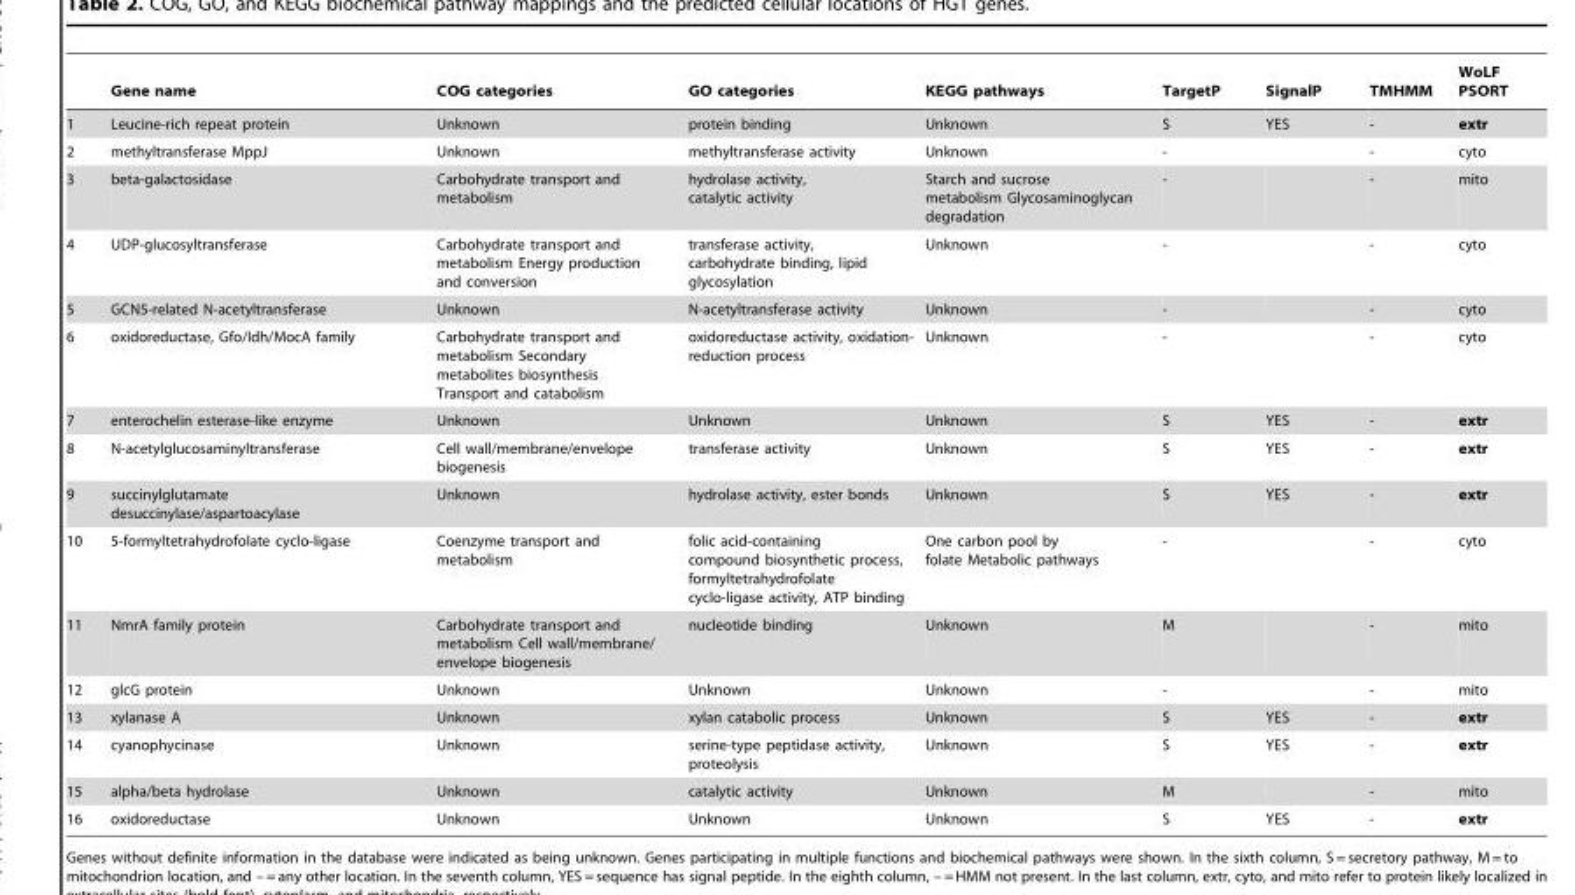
<table><thead><tr><td></td><td>Gene name</td><td>COG categories</td><td>GO categories</td><td>KEGG pathways</td><td>TargetP</td><td>SignalP</td><td>TMHMM</td><td>WoLF PSORT</td></tr></thead><tbody><tr><td>1</td><td>Leucine-rich repeat protein</td><td>Unknown</td><td>protein binding</td><td>Unknown</td><td>S</td><td>YES</td><td>-</td><td>extr</td></tr><tr><td>2</td><td>methyltransferase MppJ</td><td>Unknown</td><td>methyltransferase activity</td><td>Unknown</td><td>-</td><td></td><td>-</td><td>cyto</td></tr><tr><td>3</td><td>beta-galactosidase</td><td>Carbohydrate transport and metabolism</td><td>hydrolase activity, catalytic activity</td><td>Starch and sucrose metabolism Glycosaminoglycan degradation</td><td>-</td><td></td><td>-</td><td>mito</td></tr><tr><td>4</td><td>UDP-glucosyltransferase</td><td>Carbohydrate transport and metabolism Energy production and conversion</td><td>transferase activity, carbohydrate binding, lipid glycosylation</td><td>Unknown</td><td>-</td><td></td><td>-</td><td>cyto</td></tr><tr><td>5</td><td>GCN5-related N-acetyltransferase</td><td>Unknown</td><td>N-acetyltransferase activity</td><td>Unknown</td><td>-</td><td></td><td>-</td><td>cyto</td></tr><tr><td>6</td><td>oxidoreductase, Gfo/Idh/MocA family</td><td>Carbohydrate transport and metabolism Secondary metabolites biosynthesis Transport and catabolism</td><td>oxidoreductase activity, oxidation- reduction process</td><td>Unknown</td><td>-</td><td></td><td>-</td><td>cyto</td></tr><tr><td>7</td><td>enterochelin esterase-like enzyme</td><td>Unknown</td><td>Unknown</td><td>Unknown</td><td>S</td><td>YES</td><td>-</td><td>extr</td></tr><tr><td>8</td><td>N-acetylglucosaminyltransferase</td><td>Cell wall/membrane/envelope biogenesis</td><td>transferase activity</td><td>Unknown</td><td>S</td><td>YES</td><td>-</td><td>extr</td></tr><tr><td>9</td><td>succinylglutamate desuccinylase/aspartoacylase</td><td>Unknown</td><td>hydrolase activity, ester bonds</td><td>Unknown</td><td>S</td><td>YES</td><td>-</td><td>extr</td></tr><tr><td>10</td><td>5-formyltetrahydrofolate cyclo-ligase</td><td>Coenzyme transport and metabolism</td><td>folic acid-containing compound biosynthetic process, formyltetrahydrofolate cyclo-ligase activity, ATP binding</td><td>One carbon pool by folate Metabolic pathways</td><td>-</td><td></td><td>-</td><td>cyto</td></tr><tr><td>11</td><td>NmrA family protein</td><td>Carbohydrate transport and metabolism Cell wall/membrane/ envelope biogenesis</td><td>nucleotide binding</td><td>Unknown</td><td>M</td><td></td><td>-</td><td>mito</td></tr><tr><td>12</td><td>glcG protein</td><td>Unknown</td><td>Unknown</td><td>Unknown</td><td>-</td><td></td><td>-</td><td>mito</td></tr><tr><td>13</td><td>xylanase A</td><td>Unknown</td><td>xylan catabolic process</td><td>Unknown</td><td>S</td><td>YES</td><td>-</td><td>extr</td></tr><tr><td>14</td><td>cyanophycinase</td><td>Unknown</td><td>serine-type peptidase activity, proteolysis</td><td>Unknown</td><td>S</td><td>YES</td><td>-</td><td>extr</td></tr><tr><td>15</td><td>alpha/beta hydrolase</td><td>Unknown</td><td>catalytic activity</td><td>Unknown</td><td>M</td><td></td><td>-</td><td>mito</td></tr><tr><td>16</td><td>oxidoreductase</td><td>Unknown</td><td>Unknown</td><td>Unknown</td><td>S</td><td>YES</td><td>-</td><td>extr</td></tr></tbody></table>